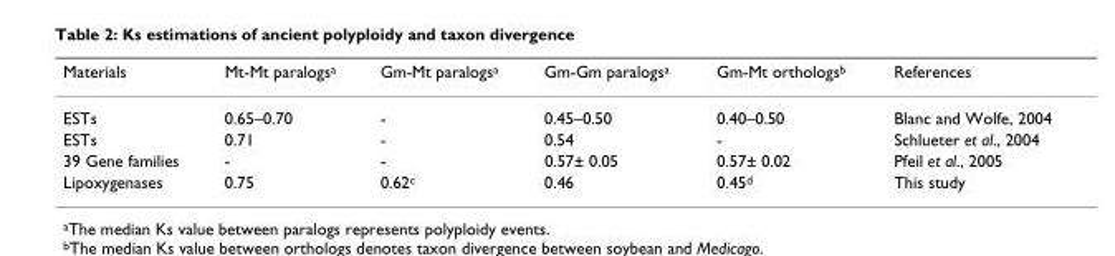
<table><thead><tr><td>Materials</td><td>Mt-Mt paralogs<sup>a</sup></td><td>Gm-Mt paralogs<sup>a</sup></td><td>Gm-Gm paralogs<sup>a</sup></td><td>Gm-Mt orthologs<sup>b</sup></td><td>References</td></tr></thead><tbody><tr><td>ESTs</td><td>0.65–0.70</td><td>-</td><td>0.45–0.50</td><td>0.40–0.50</td><td>Blanc and Wolfe, 2004</td></tr><tr><td>ESTs</td><td>0.71</td><td>-</td><td>0.54</td><td>-</td><td>Schlueter et al., 2004</td></tr><tr><td>39 Gene families</td><td>-</td><td>-</td><td>0.57± 0.05</td><td>0.57± 0.02</td><td>Pfeil et al., 2005</td></tr><tr><td>Lipoxygenases</td><td>0.75</td><td>0.62<sup>c</sup></td><td>0.46</td><td>0.45<sup>d</sup></td><td>This study</td></tr></tbody></table>